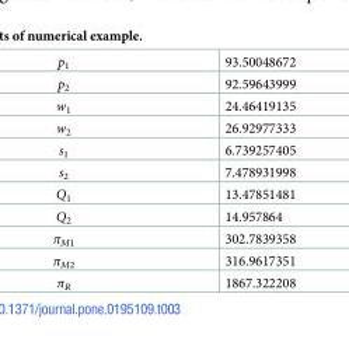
<table><tbody><tr><td>p<sub>1</sub></td><td>93.50048672</td></tr><tr><td>p<sub>2</sub></td><td>92.59643999</td></tr><tr><td>w<sub>1</sub></td><td>24.46419135</td></tr><tr><td>w<sub>2</sub></td><td>26.92977333</td></tr><tr><td>s<sub>1</sub></td><td>6.739257405</td></tr><tr><td>s<sub>2</sub></td><td>7.478931998</td></tr><tr><td>Q<sub>1</sub></td><td>13.47851481</td></tr><tr><td>Q<sub>2</sub></td><td>14.957864</td></tr><tr><td>π<sub>M1</sub></td><td>302.7839358</td></tr><tr><td>π<sub>M2</sub></td><td>316.9617351</td></tr><tr><td>π<sub>R</sub></td><td>1867.322208</td></tr></tbody></table>